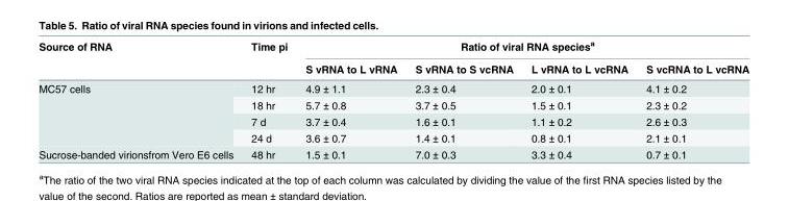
<table><thead><tr><td rowspan="2">Source of RNA</td><td rowspan="2">Time pi</td><td colspan="4">Ratio of viral RNA species<sup>a</sup></td></tr><tr><td>S vRNA to L vRNA</td><td>S vRNA to S vcRNA</td><td>L vRNA to L vcRNA</td><td>S vcRNA to L vcRNA</td></tr></thead><tbody><tr><td rowspan="4">MC57 cells</td><td>12 hr</td><td>4.9 ± 1.1</td><td>2.3 ± 0.4</td><td>2.0 ± 0.1</td><td>4.1 ± 0.2</td></tr><tr><td>18 hr</td><td>5.7 ± 0.8</td><td>3.7 ± 0.5</td><td>1.5 ± 0.1</td><td>2.3 ± 0.2</td></tr><tr><td>7 d</td><td>3.7 ± 0.4</td><td>1.6 ± 0.1</td><td>1.1 ± 0.2</td><td>2.6 ± 0.3</td></tr><tr><td>24 d</td><td>3.6 ± 0.7</td><td>1.4 ± 0.1</td><td>0.8 ± 0.1</td><td>2.1 ± 0.1</td></tr><tr><td>Sucrose-banded virionsfrom Vero E6 cells</td><td>48 hr</td><td>1.5 ± 0.1</td><td>7.0 ± 0.3</td><td>3.3 ± 0.4</td><td>0.7 ± 0.1</td></tr></tbody></table>